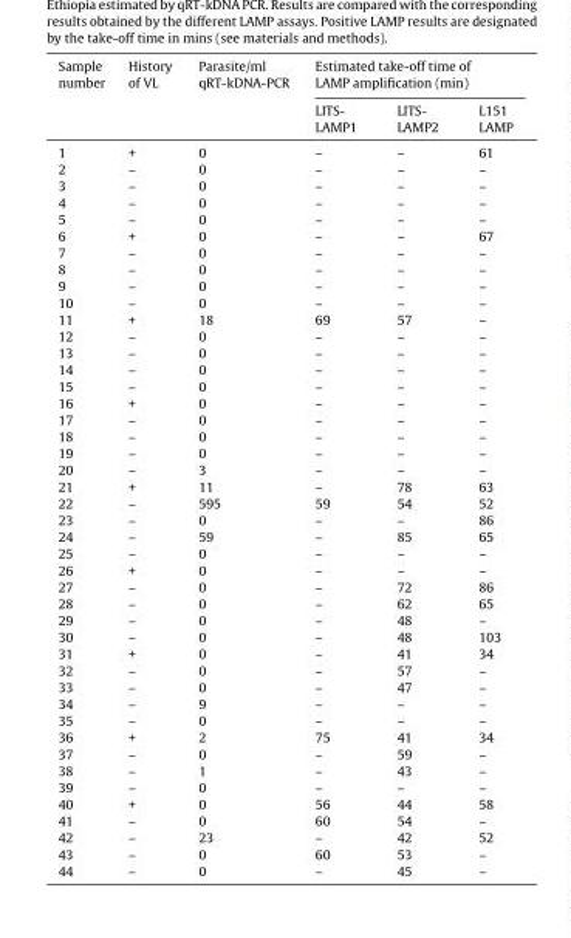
<table><thead><tr><td rowspan="2">Sample number</td><td rowspan="2">History of VL</td><td rowspan="2">Parasite/ml qRT-kDNA-PCR</td><td colspan="3">Estimated take-off time of LAMP amplification (min)</td></tr><tr><td>LITS- LAMP1</td><td>LITS- LAMP2</td><td>L151 LAMP</td></tr></thead><tbody><tr><td>1</td><td>+</td><td>0</td><td>–</td><td>–</td><td>61</td></tr><tr><td>2</td><td>–</td><td>0</td><td>–</td><td>–</td><td>–</td></tr><tr><td>3</td><td>–</td><td>0</td><td>–</td><td>–</td><td>–</td></tr><tr><td>4</td><td>–</td><td>0</td><td>–</td><td>–</td><td>–</td></tr><tr><td>5</td><td>–</td><td>0</td><td>–</td><td>–</td><td>–</td></tr><tr><td>6</td><td>+</td><td>0</td><td>–</td><td>–</td><td>67</td></tr><tr><td>7</td><td>–</td><td>0</td><td>–</td><td>–</td><td>–</td></tr><tr><td>8</td><td>–</td><td>0</td><td>–</td><td>–</td><td>–</td></tr><tr><td>9</td><td>–</td><td>0</td><td>–</td><td>–</td><td>–</td></tr><tr><td>10</td><td>–</td><td>0</td><td>–</td><td>–</td><td>–</td></tr><tr><td>11</td><td>+</td><td>18</td><td>69</td><td>57</td><td>–</td></tr><tr><td>12</td><td>–</td><td>0</td><td>–</td><td>–</td><td>–</td></tr><tr><td>13</td><td>–</td><td>0</td><td>–</td><td>–</td><td>–</td></tr><tr><td>14</td><td>–</td><td>0</td><td>–</td><td>–</td><td>–</td></tr><tr><td>15</td><td>–</td><td>0</td><td>–</td><td>–</td><td>–</td></tr><tr><td>16</td><td>+</td><td>0</td><td>–</td><td>–</td><td>–</td></tr><tr><td>17</td><td>–</td><td>0</td><td>–</td><td>–</td><td>–</td></tr><tr><td>18</td><td>–</td><td>0</td><td>–</td><td>–</td><td>–</td></tr><tr><td>19</td><td>–</td><td>0</td><td>–</td><td>–</td><td>–</td></tr><tr><td>20</td><td>–</td><td>3</td><td>–</td><td>–</td><td>–</td></tr><tr><td>21</td><td>+</td><td>11</td><td>–</td><td>78</td><td>63</td></tr><tr><td>22</td><td>–</td><td>595</td><td>59</td><td>54</td><td>52</td></tr><tr><td>23</td><td>–</td><td>0</td><td>–</td><td>–</td><td>86</td></tr><tr><td>24</td><td>–</td><td>59</td><td>–</td><td>85</td><td>65</td></tr><tr><td>25</td><td>–</td><td>0</td><td>–</td><td>–</td><td>–</td></tr><tr><td>26</td><td>+</td><td>0</td><td>–</td><td>–</td><td>–</td></tr><tr><td>27</td><td>–</td><td>0</td><td>–</td><td>72</td><td>86</td></tr><tr><td>28</td><td>–</td><td>0</td><td>–</td><td>62</td><td>65</td></tr><tr><td>29</td><td>–</td><td>0</td><td>–</td><td>48</td><td>–</td></tr><tr><td>30</td><td>–</td><td>0</td><td>–</td><td>48</td><td>103</td></tr><tr><td>31</td><td>+</td><td>0</td><td>–</td><td>41</td><td>34</td></tr><tr><td>32</td><td>–</td><td>0</td><td>–</td><td>57</td><td>–</td></tr><tr><td>33</td><td>–</td><td>0</td><td>–</td><td>47</td><td>–</td></tr><tr><td>34</td><td>–</td><td>9</td><td>–</td><td>–</td><td>–</td></tr><tr><td>35</td><td>–</td><td>0</td><td>–</td><td>–</td><td>–</td></tr><tr><td>36</td><td>+</td><td>2</td><td>75</td><td>41</td><td>34</td></tr><tr><td>37</td><td>–</td><td>0</td><td>–</td><td>59</td><td>–</td></tr><tr><td>38</td><td>–</td><td>1</td><td>–</td><td>43</td><td>–</td></tr><tr><td>39</td><td>–</td><td>0</td><td>–</td><td>–</td><td>–</td></tr><tr><td>40</td><td>+</td><td>0</td><td>56</td><td>44</td><td>58</td></tr><tr><td>41</td><td>–</td><td>0</td><td>60</td><td>54</td><td>–</td></tr><tr><td>42</td><td>–</td><td>23</td><td>–</td><td>42</td><td>52</td></tr><tr><td>43</td><td>–</td><td>0</td><td>60</td><td>53</td><td>–</td></tr><tr><td>44</td><td>–</td><td>0</td><td>–</td><td>45</td><td>–</td></tr></tbody></table>